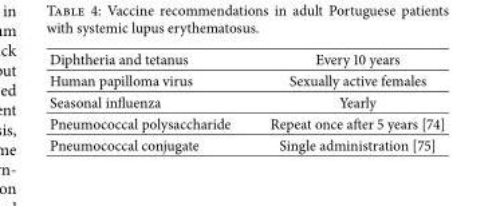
<table><tbody><tr><td>Diphtheria and tetanus</td><td>Every 10 years</td></tr><tr><td>Human papilloma virus</td><td>Sexually active females</td></tr><tr><td>Seasonal influenza</td><td>Yearly</td></tr><tr><td>Pneumococcal polysaccharide</td><td>Repeat once after 5 years [74]</td></tr><tr><td>Pneumococcal conjugate</td><td>Single administration [75]</td></tr></tbody></table>